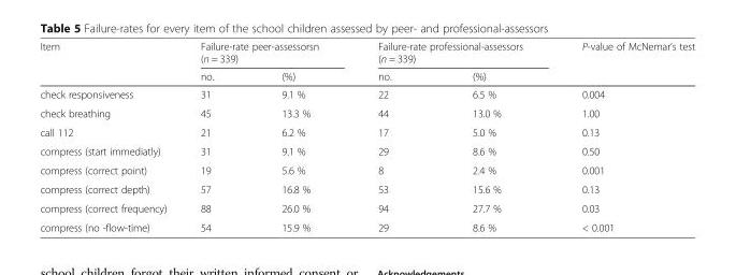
<table><thead><tr><td rowspan="2">Item</td><td colspan="2">Failure-rate peer-assessorsn (n = 339)</td><td colspan="2">Failure-rate professional-assessors (n = 339)</td><td rowspan="2">P-value of McNemar’s test</td></tr><tr><td>no.</td><td>(%)</td><td>no.</td><td>(%)</td></tr></thead><tbody><tr><td>check responsiveness</td><td>31</td><td>9.1 %</td><td>22</td><td>6.5 %</td><td>0.004</td></tr><tr><td>check breathing</td><td>45</td><td>13.3 %</td><td>44</td><td>13.0 %</td><td>1.00</td></tr><tr><td>call 112</td><td>21</td><td>6.2 %</td><td>17</td><td>5.0 %</td><td>0.13</td></tr><tr><td>compress (start immediatly)</td><td>31</td><td>9.1 %</td><td>29</td><td>8.6 %</td><td>0.50</td></tr><tr><td>compress (correct point)</td><td>19</td><td>5.6 %</td><td>8</td><td>2.4 %</td><td>0.001</td></tr><tr><td>compress (correct depth)</td><td>57</td><td>16.8 %</td><td>53</td><td>15.6 %</td><td>0.13</td></tr><tr><td>compress (correct frequency)</td><td>88</td><td>26.0 %</td><td>94</td><td>27.7 %</td><td>0.03</td></tr><tr><td>compress (no -flow-time)</td><td>54</td><td>15.9 %</td><td>29</td><td>8.6 %</td><td>&lt; 0.001</td></tr></tbody></table>